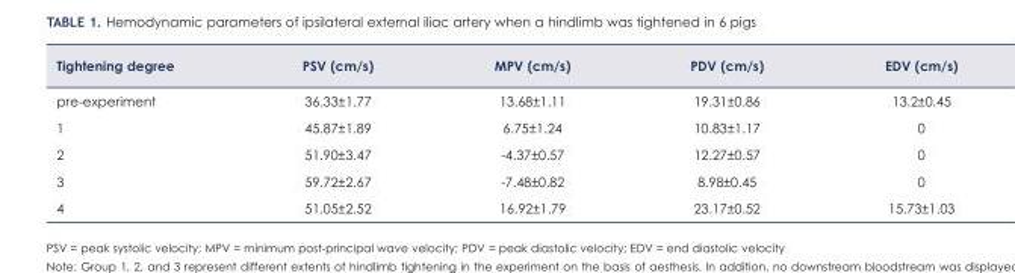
<table><thead><tr><td>Tightening degree</td><td>PSV (cm/s)</td><td>MPV (cm/s)</td><td>PDV (cm/s)</td><td>EDV (cm/s)</td></tr></thead><tbody><tr><td>pre-experiment</td><td>36.33±1.77</td><td>13.68±1.11</td><td>19.31±0.86</td><td>13.2±0.45</td></tr><tr><td>1</td><td>45.87±1.89</td><td>6.75±1.24</td><td>10.83±1.17</td><td>0</td></tr><tr><td>2</td><td>51.90±3.47</td><td>-4.37±0.57</td><td>12.27±0.57</td><td>0</td></tr><tr><td>3</td><td>59.72±2.67</td><td>-7.48±0.82</td><td>8.98±0.45</td><td>0</td></tr><tr><td>4</td><td>51.05±2.52</td><td>16.92±1.79</td><td>23.17±0.52</td><td>15.73±1.03</td></tr></tbody></table>